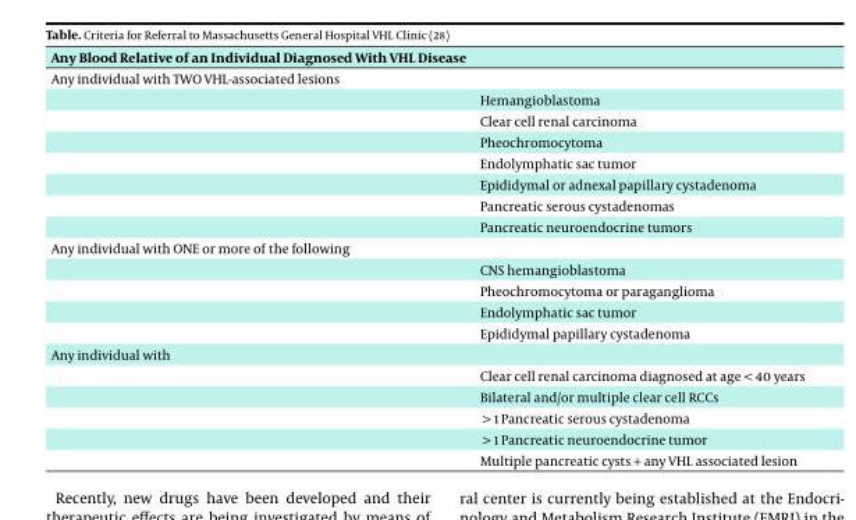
<table><thead><tr><td colspan="2">Any Blood Relative of an Individual Diagnosed With VHL Disease</td></tr><tr><td>Any individual with TWO VHL-associated lesions</td><td></td></tr></thead><tbody><tr><td></td><td>Hemangioblastoma</td></tr><tr><td></td><td>Clear cell renal carcinoma</td></tr><tr><td></td><td>Pheochromocytoma</td></tr><tr><td></td><td>Endolymphatic sac tumor</td></tr><tr><td></td><td>Epididymal or adnexal papillary cystadenoma</td></tr><tr><td></td><td>Pancreatic serous cystadenomas</td></tr><tr><td></td><td>Pancreatic neuroendocrine tumors</td></tr><tr><td colspan="2">Any individual with ONE or more of the following</td></tr><tr><td></td><td>CNS hemangioblastoma</td></tr><tr><td></td><td>Pheochromocytoma or paraganglioma</td></tr><tr><td></td><td>Endolymphatic sac tumor</td></tr><tr><td></td><td>Epididymal papillary cystadenoma</td></tr><tr><td colspan="2">Any individual with</td></tr><tr><td></td><td>Clear cell renal carcinoma diagnosed at age &lt; 40 years</td></tr><tr><td></td><td>Bilateral and/or multiple clear cell RCCs</td></tr><tr><td></td><td>&gt; 1 Pancreatic serous cystadenoma</td></tr><tr><td></td><td>&gt; 1 Pancreatic neuroendocrine tumor</td></tr><tr><td></td><td>Multiple pancreatic cysts + any VHL associated lesion</td></tr></tbody></table>